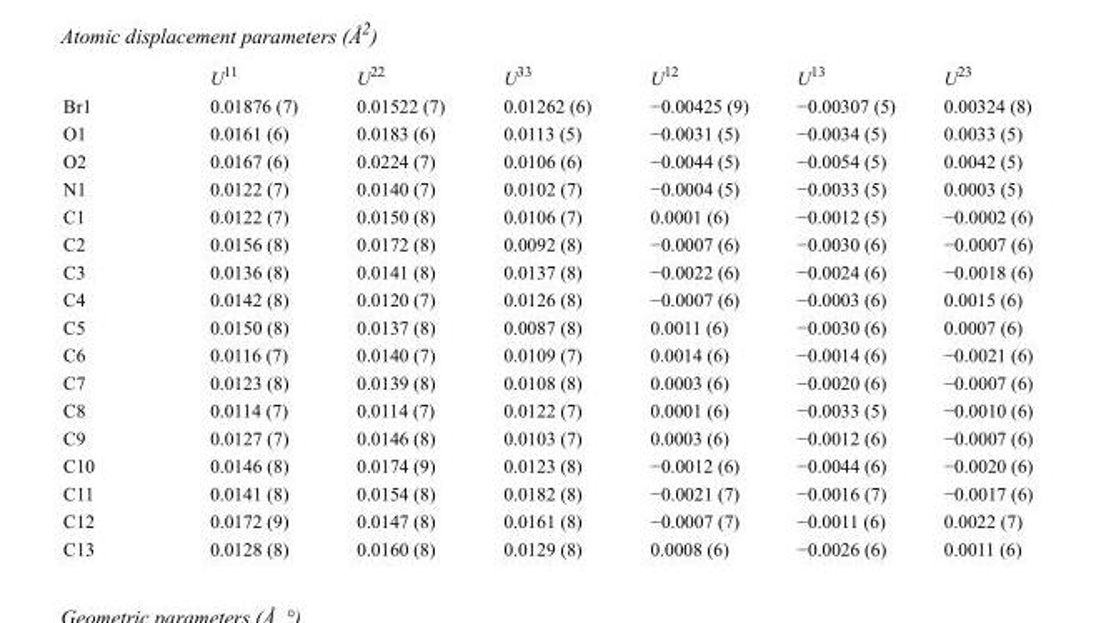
<table><thead><tr><td></td><td>U<sup>11</sup></td><td>U<sup>22</sup></td><td>U<sup>33</sup></td><td>U<sup>12</sup></td><td>U<sup>13</sup></td><td>U<sup>23</sup></td></tr></thead><tbody><tr><td>Br1</td><td>0.01876 (7)</td><td>0.01522 (7)</td><td>0.01262 (6)</td><td>−0.00425 (9)</td><td>−0.00307 (5)</td><td>0.00324 (8)</td></tr><tr><td>O1</td><td>0.0161 (6)</td><td>0.0183 (6)</td><td>0.0113 (5)</td><td>−0.0031 (5)</td><td>−0.0034 (5)</td><td>0.0033 (5)</td></tr><tr><td>O2</td><td>0.0167 (6)</td><td>0.0224 (7)</td><td>0.0106 (6)</td><td>−0.0044 (5)</td><td>−0.0054 (5)</td><td>0.0042 (5)</td></tr><tr><td>N1</td><td>0.0122 (7)</td><td>0.0140 (7)</td><td>0.0102 (7)</td><td>−0.0004 (5)</td><td>−0.0033 (5)</td><td>0.0003 (5)</td></tr><tr><td>C1</td><td>0.0122 (7)</td><td>0.0150 (8)</td><td>0.0106 (7)</td><td>0.0001 (6)</td><td>−0.0012 (5)</td><td>−0.0002 (6)</td></tr><tr><td>C2</td><td>0.0156 (8)</td><td>0.0172 (8)</td><td>0.0092 (8)</td><td>−0.0007 (6)</td><td>−0.0030 (6)</td><td>−0.0007 (6)</td></tr><tr><td>C3</td><td>0.0136 (8)</td><td>0.0141 (8)</td><td>0.0137 (8)</td><td>−0.0022 (6)</td><td>−0.0024 (6)</td><td>−0.0018 (6)</td></tr><tr><td>C4</td><td>0.0142 (8)</td><td>0.0120 (7)</td><td>0.0126 (8)</td><td>−0.0007 (6)</td><td>−0.0003 (6)</td><td>0.0015 (6)</td></tr><tr><td>C5</td><td>0.0150 (8)</td><td>0.0137 (8)</td><td>0.0087 (8)</td><td>0.0011 (6)</td><td>−0.0030 (6)</td><td>0.0007 (6)</td></tr><tr><td>C6</td><td>0.0116 (7)</td><td>0.0140 (7)</td><td>0.0109 (7)</td><td>0.0014 (6)</td><td>−0.0014 (6)</td><td>−0.0021 (6)</td></tr><tr><td>C7</td><td>0.0123 (8)</td><td>0.0139 (8)</td><td>0.0108 (8)</td><td>0.0003 (6)</td><td>−0.0020 (6)</td><td>−0.0007 (6)</td></tr><tr><td>C8</td><td>0.0114 (7)</td><td>0.0114 (7)</td><td>0.0122 (7)</td><td>0.0001 (6)</td><td>−0.0033 (5)</td><td>−0.0010 (6)</td></tr><tr><td>C9</td><td>0.0127 (7)</td><td>0.0146 (8)</td><td>0.0103 (7)</td><td>0.0003 (6)</td><td>−0.0012 (6)</td><td>−0.0007 (6)</td></tr><tr><td>C10</td><td>0.0146 (8)</td><td>0.0174 (9)</td><td>0.0123 (8)</td><td>−0.0012 (6)</td><td>−0.0044 (6)</td><td>−0.0020 (6)</td></tr><tr><td>C11</td><td>0.0141 (8)</td><td>0.0154 (8)</td><td>0.0182 (8)</td><td>−0.0021 (7)</td><td>−0.0016 (7)</td><td>−0.0017 (6)</td></tr><tr><td>C12</td><td>0.0172 (9)</td><td>0.0147 (8)</td><td>0.0161 (8)</td><td>−0.0007 (7)</td><td>−0.0011 (6)</td><td>0.0022 (7)</td></tr><tr><td>C13</td><td>0.0128 (8)</td><td>0.0160 (8)</td><td>0.0129 (8)</td><td>0.0008 (6)</td><td>−0.0026 (6)</td><td>0.0011 (6)</td></tr></tbody></table>